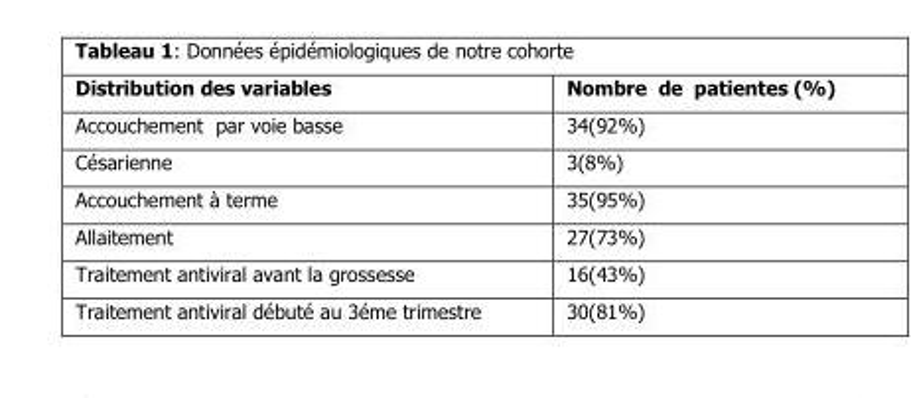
<table><thead><tr><td>Distribution des variables</td><td>Nombre de patientes (%)</td></tr></thead><tbody><tr><td>Accouchement par voie basse</td><td>34(92%)</td></tr><tr><td>Césarienne</td><td>3(8%)</td></tr><tr><td>Accouchement à terme</td><td>35(95%)</td></tr><tr><td>Allaitement</td><td>27(73%)</td></tr><tr><td>Traitement antiviral avant la grossesse</td><td>16(43%)</td></tr><tr><td>Traitement antiviral débuté au 3éme trimestre</td><td>30(81%)</td></tr></tbody></table>